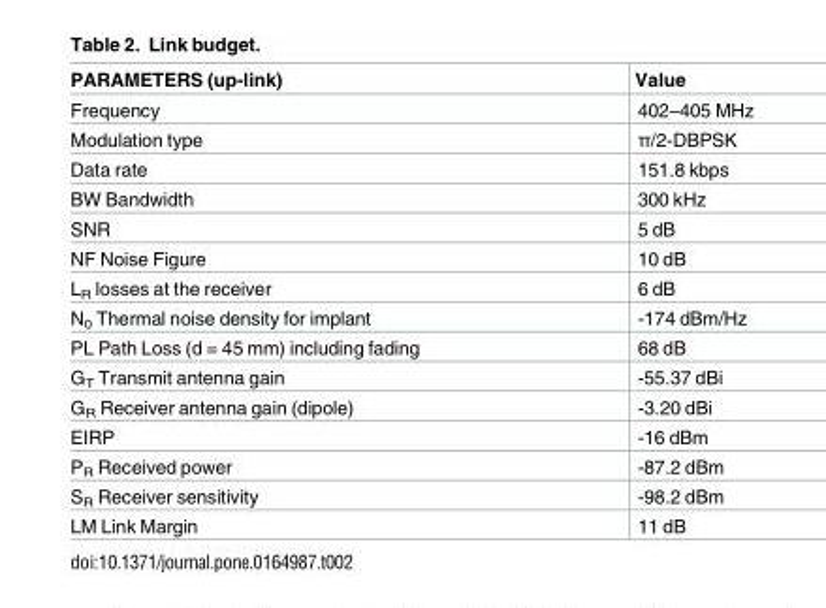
<table><thead><tr><td>PARAMETERS (up-link)</td><td>Value</td></tr></thead><tbody><tr><td>Frequency</td><td>402–405 MHz</td></tr><tr><td>Modulation type</td><td>π/2-DBPSK</td></tr><tr><td>Data rate</td><td>151.8 kbps</td></tr><tr><td>BW Bandwidth</td><td>300 kHz</td></tr><tr><td>SNR</td><td>5 dB</td></tr><tr><td>NF Noise Figure</td><td>10 dB</td></tr><tr><td>L<sub>R</sub> losses at the receiver</td><td>6 dB</td></tr><tr><td>N<sub>0</sub> Thermal noise density for implant</td><td>-174 dBm/Hz</td></tr><tr><td>PL Path Loss (d = 45 mm) including fading</td><td>68 dB</td></tr><tr><td>G<sub>T</sub> Transmit antenna gain</td><td>-55.37 dBi</td></tr><tr><td>G<sub>R</sub> Receiver antenna gain (dipole)</td><td>-3.20 dBi</td></tr><tr><td>EIRP</td><td>-16 dBm</td></tr><tr><td>P<sub>R</sub> Received power</td><td>-87.2 dBm</td></tr><tr><td>S<sub>R</sub> Receiver sensitivity</td><td>-98.2 dBm</td></tr><tr><td>LM Link Margin</td><td>11 dB</td></tr></tbody></table>